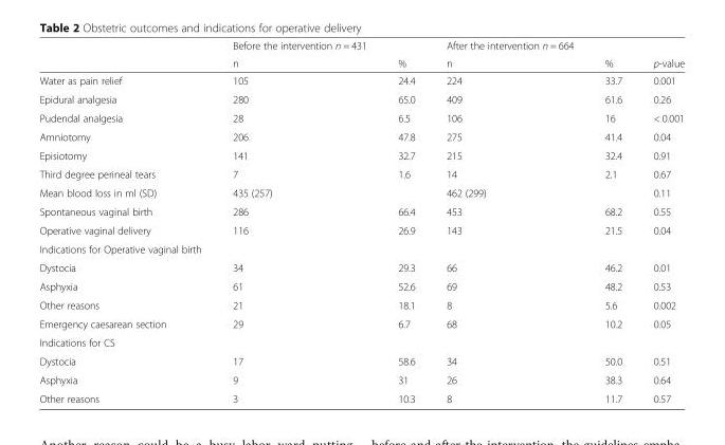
<table><thead><tr><td rowspan="2"></td><td rowspan="2">Before the intervention n = 431 n</td><td rowspan="2">%</td><td rowspan="2">After the intervention n = 664 n</td><td rowspan="2">%</td><td rowspan="2">p-value</td></tr><tr></tr></thead><tbody><tr><td>Water as pain relief</td><td>105</td><td>24.4</td><td>224</td><td>33.7</td><td>0.001</td></tr><tr><td>Epidural analgesia</td><td>280</td><td>65.0</td><td>409</td><td>61.6</td><td>0.26</td></tr><tr><td>Pudendal analgesia</td><td>28</td><td>6.5</td><td>106</td><td>16</td><td>&lt; 0.001</td></tr><tr><td>Amniotomy</td><td>206</td><td>47.8</td><td>275</td><td>41.4</td><td>0.04</td></tr><tr><td>Episiotomy</td><td>141</td><td>32.7</td><td>215</td><td>32.4</td><td>0.91</td></tr><tr><td>Third degree perineal tears</td><td>7</td><td>1.6</td><td>14</td><td>2.1</td><td>0.67</td></tr><tr><td>Mean blood loss in ml (SD)</td><td>435 (257)</td><td></td><td>462 (299)</td><td></td><td>0.11</td></tr><tr><td>Spontaneous vaginal birth</td><td>286</td><td>66.4</td><td>453</td><td>68.2</td><td>0.55</td></tr><tr><td>Operative vaginal delivery</td><td>116</td><td>26.9</td><td>143</td><td>21.5</td><td>0.04</td></tr><tr><td colspan="6">Indications for Operative vaginal birth</td></tr><tr><td>Dystocia</td><td>34</td><td>29.3</td><td>66</td><td>46.2</td><td>0.01</td></tr><tr><td>Asphyxia</td><td>61</td><td>52.6</td><td>69</td><td>48.2</td><td>0.53</td></tr><tr><td>Other reasons</td><td>21</td><td>18.1</td><td>8</td><td>5.6</td><td>0.002</td></tr><tr><td>Emergency caesarean section</td><td>29</td><td>6.7</td><td>68</td><td>10.2</td><td>0.05</td></tr><tr><td colspan="6">Indications for CS</td></tr><tr><td>Dystocia</td><td>17</td><td>58.6</td><td>34</td><td>50.0</td><td>0.51</td></tr><tr><td>Asphyxia</td><td>9</td><td>31</td><td>26</td><td>38.3</td><td>0.64</td></tr><tr><td>Other reasons</td><td>3</td><td>10.3</td><td>8</td><td>11.7</td><td>0.57</td></tr></tbody></table>